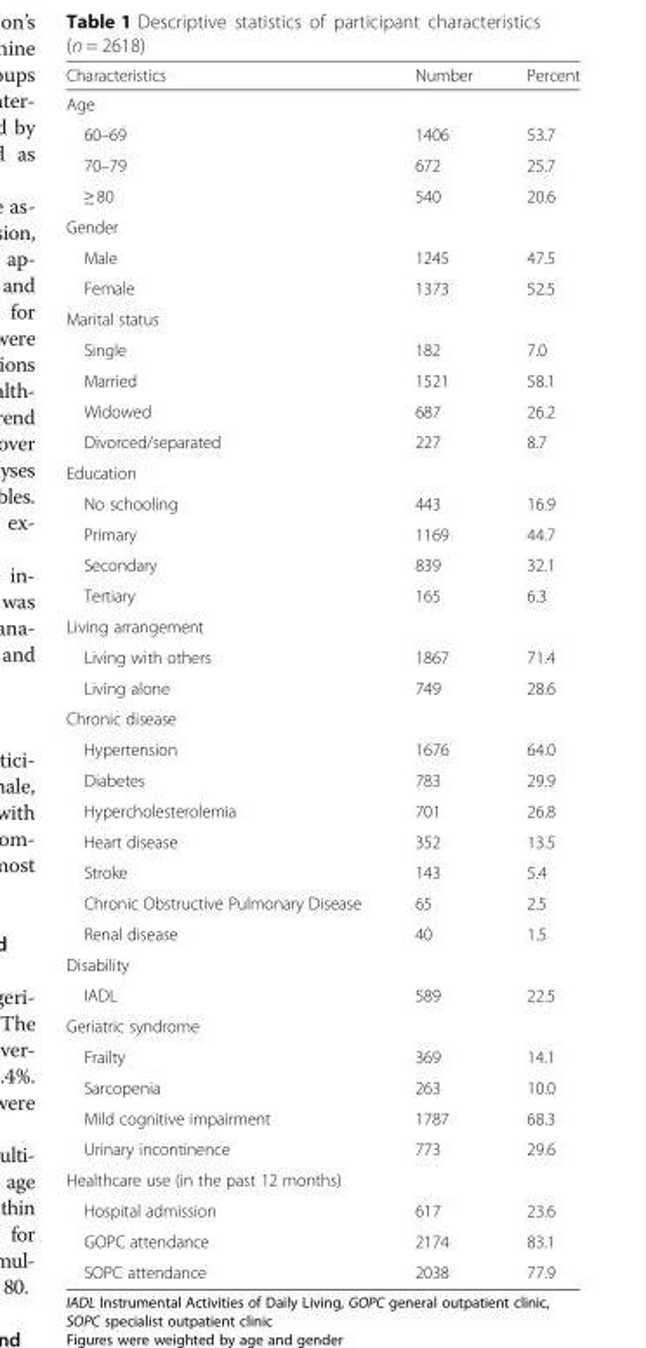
<table><thead><tr><td>Characteristics</td><td>Number</td><td>Percent</td></tr></thead><tbody><tr><td colspan="3">Age</td></tr><tr><td>60–69</td><td>1406</td><td>53.7</td></tr><tr><td>70–79</td><td>672</td><td>25.7</td></tr><tr><td>≥ 80</td><td>540</td><td>20.6</td></tr><tr><td colspan="3">Gender</td></tr><tr><td>Male</td><td>1245</td><td>47.5</td></tr><tr><td>Female</td><td>1373</td><td>52.5</td></tr><tr><td colspan="3">Marital status</td></tr><tr><td>Single</td><td>182</td><td>7.0</td></tr><tr><td>Married</td><td>1521</td><td>58.1</td></tr><tr><td>Widowed</td><td>687</td><td>26.2</td></tr><tr><td>Divorced/separated</td><td>227</td><td>8.7</td></tr><tr><td colspan="3">Education</td></tr><tr><td>No schooling</td><td>443</td><td>16.9</td></tr><tr><td>Primary</td><td>1169</td><td>44.7</td></tr><tr><td>Secondary</td><td>839</td><td>32.1</td></tr><tr><td>Tertiary</td><td>165</td><td>6.3</td></tr><tr><td colspan="3">Living arrangement</td></tr><tr><td>Living with others</td><td>1867</td><td>71.4</td></tr><tr><td>Living alone</td><td>749</td><td>28.6</td></tr><tr><td colspan="3">Chronic disease</td></tr><tr><td>Hypertension</td><td>1676</td><td>64.0</td></tr><tr><td>Diabetes</td><td>783</td><td>29.9</td></tr><tr><td>Hypercholesterolemia</td><td>701</td><td>26.8</td></tr><tr><td>Heart disease</td><td>352</td><td>13.5</td></tr><tr><td>Stroke</td><td>143</td><td>5.4</td></tr><tr><td>Chronic Obstructive Pulmonary Disease</td><td>65</td><td>2.5</td></tr><tr><td>Renal disease</td><td>40</td><td>1.5</td></tr><tr><td colspan="3">Disability</td></tr><tr><td>IADL</td><td>589</td><td>22.5</td></tr><tr><td colspan="3">Geriatric syndrome</td></tr><tr><td>Frailty</td><td>369</td><td>14.1</td></tr><tr><td>Sarcopenia</td><td>263</td><td>10.0</td></tr><tr><td>Mild cognitive impairment</td><td>1787</td><td>68.3</td></tr><tr><td>Urinary incontinence</td><td>773</td><td>29.6</td></tr><tr><td colspan="3">Healthcare use (in the past 12 months)</td></tr><tr><td>Hospital admission</td><td>617</td><td>23.6</td></tr><tr><td>GOPC attendance</td><td>2174</td><td>83.1</td></tr><tr><td>SOPC attendance</td><td>2038</td><td>77.9</td></tr></tbody></table>